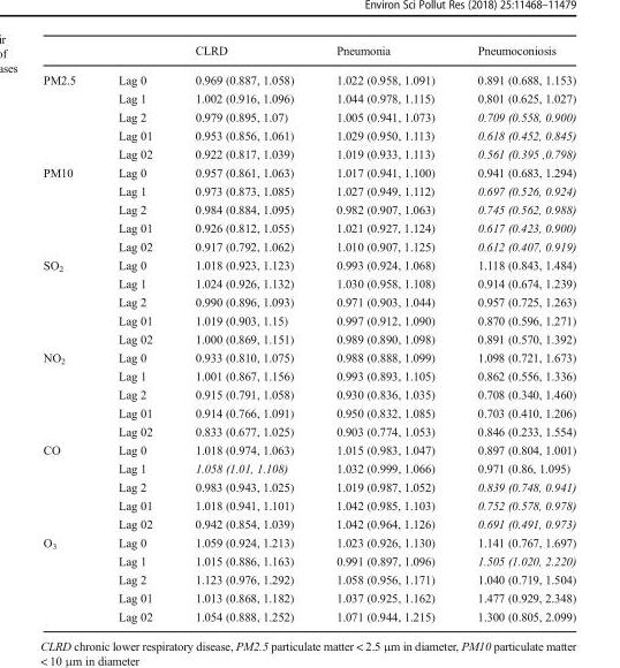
<table><thead><tr><td></td><td></td><td>CLRD</td><td>Pneumonia</td><td>Pneumoconiosis</td></tr></thead><tbody><tr><td rowspan="5">PM2.5</td><td>Lag 0</td><td>0.969 (0.887, 1.058)</td><td>1.022 (0.958, 1.091)</td><td>0.891 (0.688, 1.153)</td></tr><tr><td>Lag 1</td><td>1.002 (0.916, 1.096)</td><td>1.044 (0.978, 1.115)</td><td>0.801 (0.625, 1.027)</td></tr><tr><td>Lag 2</td><td>0.979 (0.895, 1.07)</td><td>1.005 (0.941, 1.073)</td><td>0.709 (0.558, 0.900)</td></tr><tr><td>Lag 01</td><td>0.953 (0.856, 1.061)</td><td>1.029 (0.950, 1.113)</td><td>0.618 (0.452, 0.845)</td></tr><tr><td>Lag 02</td><td>0.922 (0.817, 1.039)</td><td>1.019 (0.933, 1.113)</td><td>0.561 (0.395 ,0.798)</td></tr><tr><td rowspan="5">PM10</td><td>Lag 0</td><td>0.957 (0.861, 1.063)</td><td>1.017 (0.941, 1.100)</td><td>0.941 (0.683, 1.294)</td></tr><tr><td>Lag 1</td><td>0.973 (0.873, 1.085)</td><td>1.027 (0.949, 1.112)</td><td>0.697 (0.526, 0.924)</td></tr><tr><td>Lag 2</td><td>0.984 (0.884, 1.095)</td><td>0.982 (0.907, 1.063)</td><td>0.745 (0.562, 0.988)</td></tr><tr><td>Lag 01</td><td>0.926 (0.812, 1.055)</td><td>1.021 (0.927, 1.124)</td><td>0.617 (0.423, 0.900)</td></tr><tr><td>Lag 02</td><td>0.917 (0.792, 1.062)</td><td>1.010 (0.907, 1.125)</td><td>0.612 (0.407, 0.919)</td></tr><tr><td rowspan="5">SO<sub>2</sub></td><td>Lag 0</td><td>1.018 (0.923, 1.123)</td><td>0.993 (0.924, 1.068)</td><td>1.118 (0.843, 1.484)</td></tr><tr><td>Lag 1</td><td>1.024 (0.926, 1.132)</td><td>1.030 (0.958, 1.108)</td><td>0.914 (0.674, 1.239)</td></tr><tr><td>Lag 2</td><td>0.990 (0.896, 1.093)</td><td>0.971 (0.903, 1.044)</td><td>0.957 (0.725, 1.263)</td></tr><tr><td>Lag 01</td><td>1.019 (0.903, 1.15)</td><td>0.997 (0.912, 1.090)</td><td>0.870 (0.596, 1.271)</td></tr><tr><td>Lag 02</td><td>1.000 (0.869, 1.151)</td><td>0.989 (0.890, 1.098)</td><td>0.891 (0.570, 1.392)</td></tr><tr><td rowspan="5">NO<sub>2</sub></td><td>Lag 0</td><td>0.933 (0.810, 1.075)</td><td>0.988 (0.888, 1.099)</td><td>1.098 (0.721, 1.673)</td></tr><tr><td>Lag 1</td><td>1.001 (0.867, 1.156)</td><td>0.993 (0.893, 1.105)</td><td>0.862 (0.556, 1.336)</td></tr><tr><td>Lag 2</td><td>0.915 (0.791, 1.058)</td><td>0.930 (0.836, 1.035)</td><td>0.708 (0.340, 1.460)</td></tr><tr><td>Lag 01</td><td>0.914 (0.766, 1.091)</td><td>0.950 (0.832, 1.085)</td><td>0.703 (0.410, 1.206)</td></tr><tr><td>Lag 02</td><td>0.833 (0.677, 1.025)</td><td>0.903 (0.774, 1.053)</td><td>0.846 (0.233, 1.554)</td></tr><tr><td rowspan="5">CO</td><td>Lag 0</td><td>1.018 (0.974, 1.063)</td><td>1.015 (0.983, 1.047)</td><td>0.897 (0.804, 1.001)</td></tr><tr><td>Lag 1</td><td>1.058 (1.01, 1.108)</td><td>1.032 (0.999, 1.066)</td><td>0.971 (0.86, 1.095)</td></tr><tr><td>Lag 2</td><td>0.983 (0.943, 1.025)</td><td>1.019 (0.987, 1.052)</td><td>0.839 (0.748, 0.941)</td></tr><tr><td>Lag 01</td><td>1.018 (0.941, 1.101)</td><td>1.042 (0.985, 1.103)</td><td>0.752 (0.578, 0.978)</td></tr><tr><td>Lag 02</td><td>0.942 (0.854, 1.039)</td><td>1.042 (0.964, 1.126)</td><td>0.691 (0.491, 0.973)</td></tr><tr><td rowspan="5">O<sub>3</sub></td><td>Lag 0</td><td>1.059 (0.924, 1.213)</td><td>1.023 (0.926, 1.130)</td><td>1.141 (0.767, 1.697)</td></tr><tr><td>Lag 1</td><td>1.015 (0.886, 1.163)</td><td>0.991 (0.897, 1.096)</td><td>1.505 (1.020, 2.220)</td></tr><tr><td>Lag 2</td><td>1.123 (0.976, 1.292)</td><td>1.058 (0.956, 1.171)</td><td>1.040 (0.719, 1.504)</td></tr><tr><td>Lag 01</td><td>1.013 (0.868, 1.182)</td><td>1.037 (0.925, 1.162)</td><td>1.477 (0.929, 2.348)</td></tr><tr><td>Lag 02</td><td>1.054 (0.888, 1.252)</td><td>1.071 (0.944, 1.215)</td><td>1.300 (0.805, 2.099)</td></tr></tbody></table>